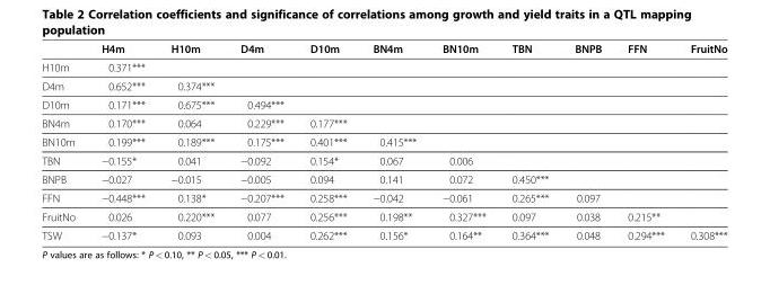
<table><thead><tr><td></td><td>H4m</td><td>H10m</td><td>D4m</td><td>D10m</td><td>BN4m</td><td>BN10m</td><td>TBN</td><td>BNPB</td><td>FFN</td><td>FruitNo</td></tr></thead><tbody><tr><td>H10m</td><td>0.371***</td><td></td><td></td><td></td><td></td><td></td><td></td><td></td><td></td><td></td></tr><tr><td>D4m</td><td>0.652***</td><td>0.374***</td><td></td><td></td><td></td><td></td><td></td><td></td><td></td><td></td></tr><tr><td>D10m</td><td>0.171***</td><td>0.675***</td><td>0.494***</td><td></td><td></td><td></td><td></td><td></td><td></td><td></td></tr><tr><td>BN4m</td><td>0.170***</td><td>0.064</td><td>0.229***</td><td>0.177***</td><td></td><td></td><td></td><td></td><td></td><td></td></tr><tr><td>BN10m</td><td>0.199***</td><td>0.189***</td><td>0.175***</td><td>0.401***</td><td>0.415***</td><td></td><td></td><td></td><td></td><td></td></tr><tr><td>TBN</td><td>−0.155*</td><td>0.041</td><td>−0.092</td><td>0.154*</td><td>0.067</td><td>0.006</td><td></td><td></td><td></td><td></td></tr><tr><td>BNPB</td><td>−0.027</td><td>−0.015</td><td>−0.005</td><td>0.094</td><td>0.141</td><td>0.072</td><td>0.450***</td><td></td><td></td><td></td></tr><tr><td>FFN</td><td>−0.448***</td><td>0.138*</td><td>−0.207***</td><td>0.258***</td><td>−0.042</td><td>−0.061</td><td>0.265***</td><td>0.097</td><td></td><td></td></tr><tr><td>FruitNo</td><td>0.026</td><td>0.220***</td><td>0.077</td><td>0.256***</td><td>0.198**</td><td>0.327***</td><td>0.097</td><td>0.038</td><td>0.215**</td><td></td></tr><tr><td>TSW</td><td>−0.137*</td><td>0.093</td><td>0.004</td><td>0.262***</td><td>0.156*</td><td>0.164**</td><td>0.364***</td><td>0.048</td><td>0.294***</td><td>0.308***</td></tr></tbody></table>